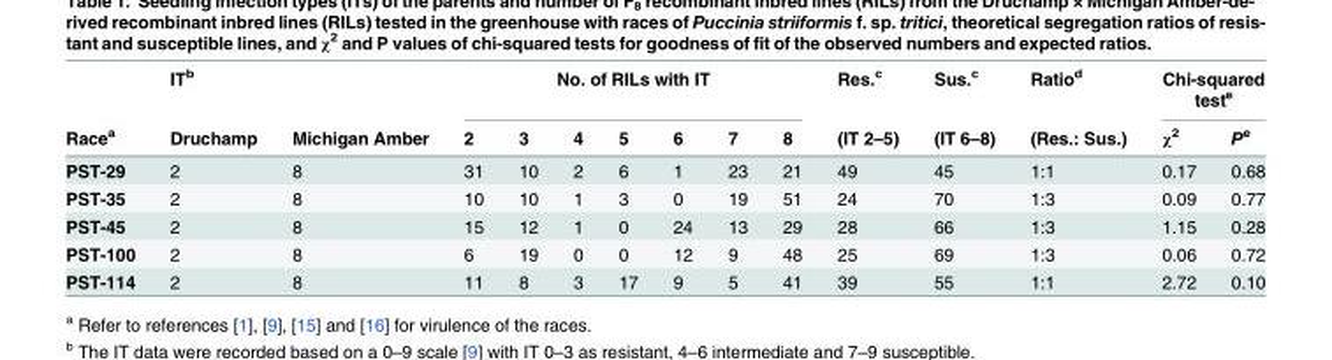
<table><thead><tr><td rowspan="2">Race<sup>a</sup></td><td rowspan="2">IT<sup>b</sup> Druchamp</td><td rowspan="2">Michigan Amber</td><td colspan="7">No. of RILs with IT</td><td rowspan="2">Res.<sup>c</sup> (IT 2–5)</td><td rowspan="2">Sus.<sup>c</sup> (IT 6–8)</td><td rowspan="2">Ratio<sup>d</sup> (Res.: Sus.)</td><td colspan="2">Chi-squared test<sup>e</sup></td></tr><tr><td>2</td><td>3</td><td>4</td><td>5</td><td>6</td><td>7</td><td>8</td><td>χ<sup>2</sup></td><td>P<sup>e</sup></td></tr></thead><tbody><tr><td>PST-29</td><td>2</td><td>8</td><td>31</td><td>10</td><td>2</td><td>6</td><td>1</td><td>23</td><td>21</td><td>49</td><td>45</td><td>1:1</td><td>0.17</td><td>0.68</td></tr><tr><td>PST-35</td><td>2</td><td>8</td><td>10</td><td>10</td><td>1</td><td>3</td><td>0</td><td>19</td><td>51</td><td>24</td><td>70</td><td>1:3</td><td>0.09</td><td>0.77</td></tr><tr><td>PST-45</td><td>2</td><td>8</td><td>15</td><td>12</td><td>1</td><td>0</td><td>24</td><td>13</td><td>29</td><td>28</td><td>66</td><td>1:3</td><td>1.15</td><td>0.28</td></tr><tr><td>PST-100</td><td>2</td><td>8</td><td>6</td><td>19</td><td>0</td><td>0</td><td>12</td><td>9</td><td>48</td><td>25</td><td>69</td><td>1:3</td><td>0.06</td><td>0.72</td></tr><tr><td>PST-114</td><td>2</td><td>8</td><td>11</td><td>8</td><td>3</td><td>17</td><td>9</td><td>5</td><td>41</td><td>39</td><td>55</td><td>1:1</td><td>2.72</td><td>0.10</td></tr></tbody></table>